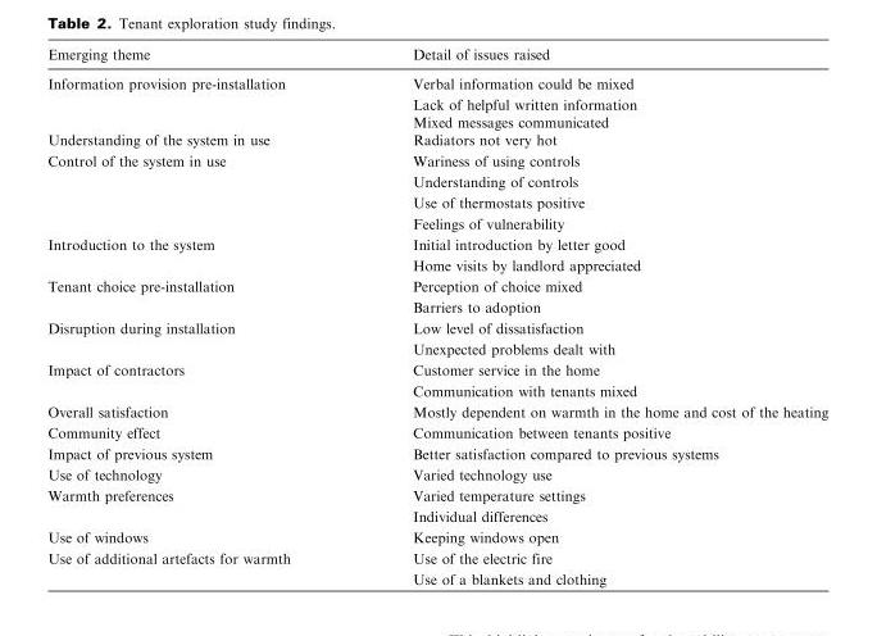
<table><thead><tr><td>Emerging theme</td><td>Detail of issues raised</td></tr></thead><tbody><tr><td rowspan="3">Information provision pre-installation</td><td>Verbal information could be mixed</td></tr><tr><td>Lack of helpful written information</td></tr><tr><td>Mixed messages communicated</td></tr><tr><td>Understanding of the system in use</td><td>Radiators not very hot</td></tr><tr><td rowspan="4">Control of the system in use</td><td>Wariness of using controls</td></tr><tr><td>Understanding of controls</td></tr><tr><td>Use of thermostats positive</td></tr><tr><td>Feelings of vulnerability</td></tr><tr><td rowspan="2">Introduction to the system</td><td>Initial introduction by letter good</td></tr><tr><td>Home visits by landlord appreciated</td></tr><tr><td rowspan="2">Tenant choice pre-installation</td><td>Perception of choice mixed</td></tr><tr><td>Barriers to adoption</td></tr><tr><td rowspan="2">Disruption during installation</td><td>Low level of dissatisfaction</td></tr><tr><td>Unexpected problems dealt with</td></tr><tr><td rowspan="2">Impact of contractors</td><td>Customer service in the home</td></tr><tr><td>Communication with tenants mixed</td></tr><tr><td>Overall satisfaction</td><td>Mostly dependent on warmth in the home and cost of the heating</td></tr><tr><td>Community effect</td><td>Communication between tenants positive</td></tr><tr><td>Impact of previous system</td><td>Better satisfaction compared to previous systems</td></tr><tr><td>Use of technology</td><td>Varied technology use</td></tr><tr><td rowspan="2">Warmth preferences</td><td>Varied temperature settings</td></tr><tr><td>Individual differences</td></tr><tr><td>Use of windows</td><td>Keeping windows open</td></tr><tr><td rowspan="2">Use of additional artefacts for warmth</td><td>Use of the electric fire</td></tr><tr><td>Use of a blankets and clothing</td></tr></tbody></table>